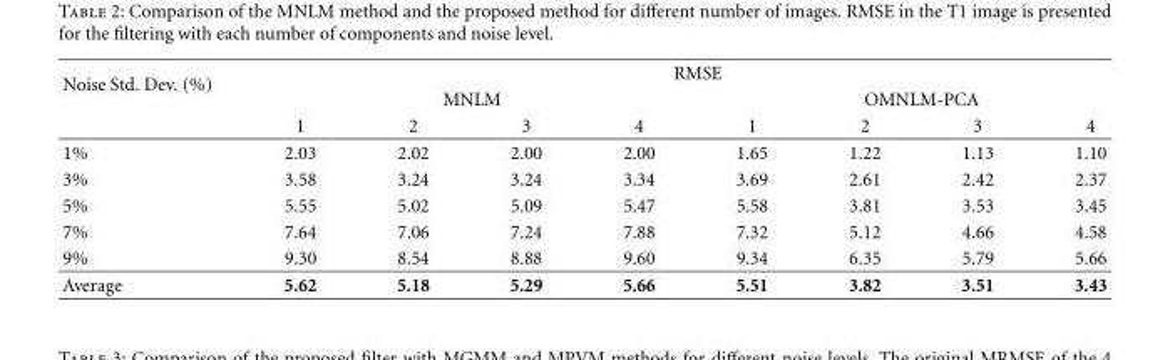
<table><thead><tr><td rowspan="3">Noise Std. Dev. (%)</td><td colspan="8">RMSE</td></tr><tr><td colspan="4">MNLM</td><td colspan="4">OMNLM-PCA</td></tr><tr><td>1</td><td>2</td><td>3</td><td>4</td><td>1</td><td>2</td><td>3</td><td>4</td></tr></thead><tbody><tr><td>1%</td><td>2.03</td><td>2.02</td><td>2.00</td><td>2.00</td><td>1.65</td><td>1.22</td><td>1.13</td><td>1.10</td></tr><tr><td>3%</td><td>3.58</td><td>3.24</td><td>3.24</td><td>3.34</td><td>3.69</td><td>2.61</td><td>2.42</td><td>2.37</td></tr><tr><td>5%</td><td>5.55</td><td>5.02</td><td>5.09</td><td>5.47</td><td>5.58</td><td>3.81</td><td>3.53</td><td>3.45</td></tr><tr><td>7%</td><td>7.64</td><td>7.06</td><td>7.24</td><td>7.88</td><td>7.32</td><td>5.12</td><td>4.66</td><td>4.58</td></tr><tr><td>9%</td><td>9.30</td><td>8.54</td><td>8.88</td><td>9.60</td><td>9.34</td><td>6.35</td><td>5.79</td><td>5.66</td></tr><tr><td>Average</td><td>5.62</td><td>5.18</td><td>5.29</td><td>5.66</td><td>5.51</td><td>3.82</td><td>3.51</td><td>3.43</td></tr></tbody></table>